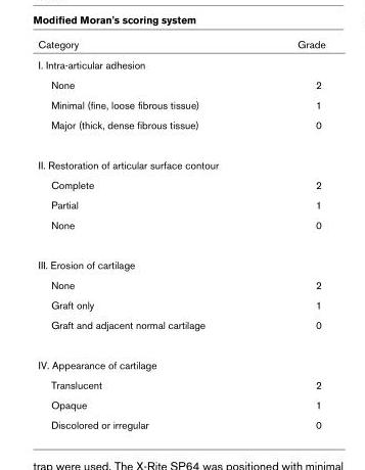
<table><thead><tr><td>Category</td><td>Grade</td></tr></thead><tbody><tr><td colspan="2">I. Intra-articular adhesion</td></tr><tr><td>None</td><td>2</td></tr><tr><td>Minimal (fine, loose fibrous tissue)</td><td>1</td></tr><tr><td>Major (thick, dense fibrous tissue)</td><td>0</td></tr><tr><td colspan="2">II. Restoration of articular surface contour</td></tr><tr><td>Complete</td><td>2</td></tr><tr><td>Partial</td><td>1</td></tr><tr><td>None</td><td>0</td></tr><tr><td colspan="2">III. Erosion of cartilage</td></tr><tr><td>None</td><td>2</td></tr><tr><td>Graft only</td><td>1</td></tr><tr><td>Graft and adjacent normal cartilage</td><td>0</td></tr><tr><td colspan="2">IV. Appearance of cartilage</td></tr><tr><td>Translucent</td><td>2</td></tr><tr><td>Opaque</td><td>1</td></tr><tr><td>Discolored or irregular</td><td>0</td></tr></tbody></table>